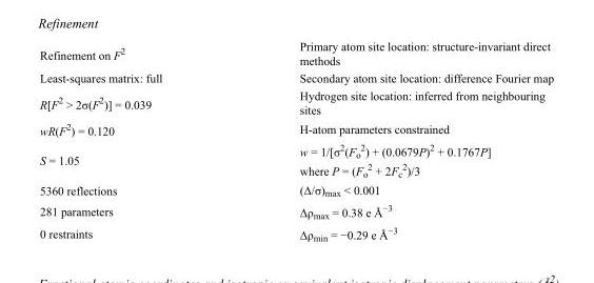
<table><tbody><tr><td>Refinement on F<sup>2</sup></td><td>Primary atom site location: structure-invariant direct methods</td></tr><tr><td>Least-squares matrix: full</td><td>Secondary atom site location: difference Fourier map</td></tr><tr><td>R[F<sup>2</sup> &gt; 2σ(F<sup>2</sup>)] = 0.039</td><td>Hydrogen site location: inferred from neighbouring sites</td></tr><tr><td>wR(F<sup>2</sup>) = 0.120</td><td>H-atom parameters constrained</td></tr><tr><td>S = 1.05</td><td>w = 1/[σ<sup>2</sup>(F<sub>o</sub> <sup>2</sup>) + (0.0679P)<sup>2</sup> + 0.1767P] where P = (F<sub>o</sub> <sup>2</sup> + 2F<sub>c</sub> <sup>2</sup>)/3</td></tr><tr><td>5360 reflections</td><td>(Δ/σ)<sub>max</sub> &lt; 0.001</td></tr><tr><td>281 parameters</td><td>Δρ<sub>max</sub> = 0.38 e Å<sup>−3</sup></td></tr><tr><td>0 restraints</td><td>Δρ<sub>min</sub> = −0.29 e Å<sup>−3</sup></td></tr></tbody></table>